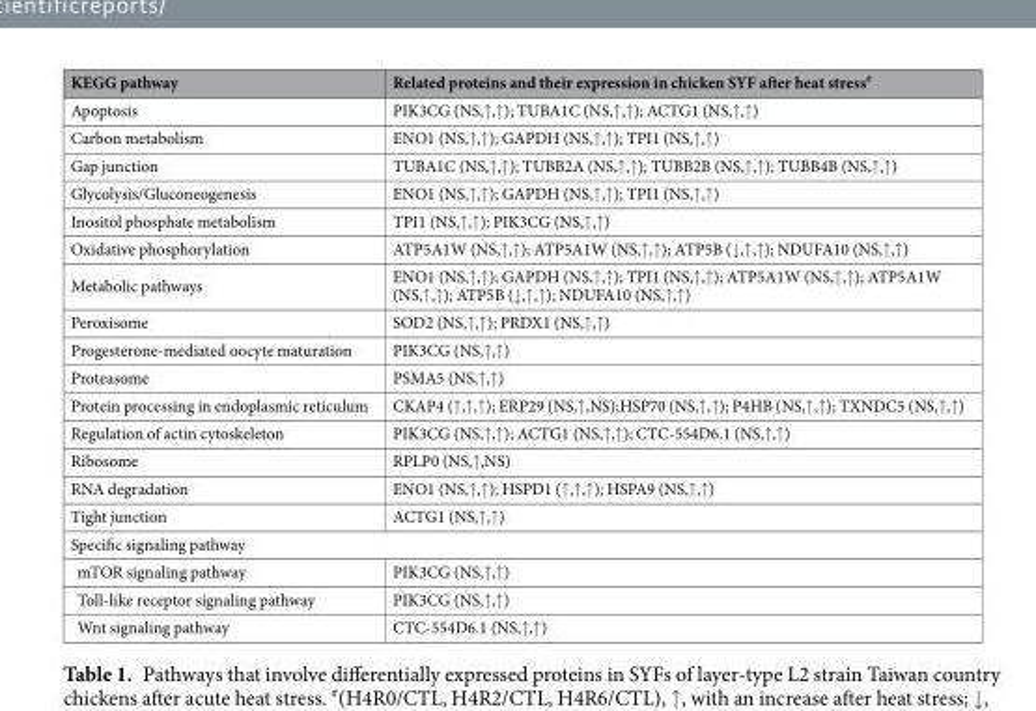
<table><thead><tr><td>KEGG pathway</td><td>Related proteins and their expression in chicken SYF after heat stress<sup>#</sup></td></tr></thead><tbody><tr><td>Apoptosis</td><td>PIK3CG (NS,↑,↑); TUBA1C (NS,↑,↑); ACTG1 (NS,↑,↑)</td></tr><tr><td>Carbon metabolism</td><td>ENO1 (NS,↑,↑); GAPDH (NS,↑,↑); TPI1 (NS,↑,↑)</td></tr><tr><td>Gap junction</td><td>TUBA1C (NS,↑,↑); TUBB2A (NS,↑,↑); TUBB2B (NS,↑,↑); TUBB4B (NS,↑,↑)</td></tr><tr><td>Glycolysis/Gluconeogenesis</td><td>ENO1 (NS,↑,↑); GAPDH (NS,↑,↑); TPI1 (NS,↑,↑)</td></tr><tr><td>Inositol phosphate metabolism</td><td>TPI1 (NS,↑,↑); PIK3CG (NS,↑,↑)</td></tr><tr><td>Oxidative phosphorylation</td><td>ATP5A1W (NS,↑,↑); ATP5A1W (NS,↑,↑); ATP5B (↓,↑,↑); NDUFA10 (NS,↑,↑)</td></tr><tr><td>Metabolic pathways</td><td>ENO1 (NS,↑,↑); GAPDH (NS,↑,↑); TPI1 (NS,↑,↑); ATP5A1W (NS,↑,↑); ATP5A1W (NS,↑,↑); ATP5B (↓,↑,↑); NDUFA10 (NS,↑,↑)</td></tr><tr><td>Peroxisome</td><td>SOD2 (NS,↑,↑); PRDX1 (NS,↑,↑)</td></tr><tr><td>Progesterone-mediated oocyte maturation</td><td>PIK3CG (NS,↑,↑)</td></tr><tr><td>Proteasome</td><td>PSMA5 (NS,↑,↑)</td></tr><tr><td>Protein processing in endoplasmic reticulum</td><td>CKAP4 (↑,↑,↑); ERP29 (NS,↑,NS);HSP70 (NS,↑,↑); P4HB (NS,↑,↑); TXNDC5 (NS,↑,↑)</td></tr><tr><td>Regulation of actin cytoskeleton</td><td>PIK3CG (NS,↑,↑); ACTG1 (NS,↑,↑); CTC-554D6.1 (NS,↑,↑)</td></tr><tr><td>Ribosome</td><td>RPLP0 (NS,↑,NS)</td></tr><tr><td>RNA degradation</td><td>ENO1 (NS,↑,↑); HSPD1 (↑,↑,↑); HSPA9 (NS,↑,↑)</td></tr><tr><td>Tight junction</td><td>ACTG1 (NS,↑,↑)</td></tr><tr><td colspan="2">Specific signaling pathway</td></tr><tr><td>mTOR signaling pathway</td><td>PIK3CG (NS,↑,↑)</td></tr><tr><td>Toll-like receptor signaling pathway</td><td>PIK3CG (NS,↑,↑)</td></tr><tr><td>Wnt signaling pathway</td><td>CTC-554D6.1 (NS,↑,↑)</td></tr></tbody></table>